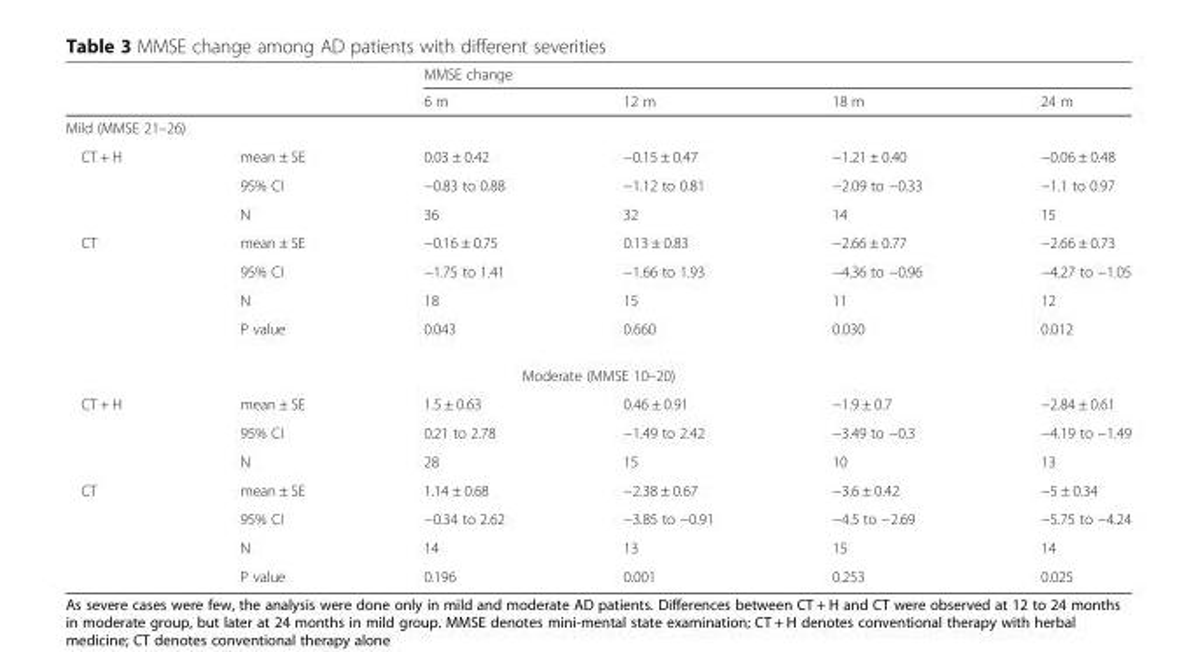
<table><thead><tr><td rowspan="2"></td><td rowspan="2"></td><td colspan="4">MMSE change</td></tr><tr><td>6 m</td><td>12 m</td><td>18 m</td><td>24 m</td></tr></thead><tbody><tr><td colspan="6">Mild (MMSE 21–26)</td></tr><tr><td rowspan="3">CT + H</td><td>mean ± SE</td><td>0.03 ± 0.42</td><td>−0.15 ± 0.47</td><td>−1.21 ± 0.40</td><td>−0.06 ± 0.48</td></tr><tr><td>95% CI</td><td>−0.83 to 0.88</td><td>−1.12 to 0.81</td><td>−2.09 to −0.33</td><td>−1.1 to 0.97</td></tr><tr><td>N</td><td>36</td><td>32</td><td>14</td><td>15</td></tr><tr><td rowspan="4">CT</td><td>mean ± SE</td><td>−0.16 ± 0.75</td><td>0.13 ± 0.83</td><td>−2.66 ± 0.77</td><td>−2.66 ± 0.73</td></tr><tr><td>95% CI</td><td>−1.75 to 1.41</td><td>−1.66 to 1.93</td><td>−4.36 to −0.96</td><td>−4.27 to −1.05</td></tr><tr><td>N</td><td>18</td><td>15</td><td>11</td><td>12</td></tr><tr><td>P value</td><td>0.043</td><td>0.660</td><td>0.030</td><td>0.012</td></tr><tr><td colspan="6">Moderate (MMSE 10–20)</td></tr><tr><td rowspan="3">CT + H</td><td>mean ± SE</td><td>1.5 ± 0.63</td><td>0.46 ± 0.91</td><td>−1.9 ± 0.7</td><td>−2.84 ± 0.61</td></tr><tr><td>95% CI</td><td>0.21 to 2.78</td><td>−1.49 to 2.42</td><td>−3.49 to −0.3</td><td>−4.19 to −1.49</td></tr><tr><td>N</td><td>28</td><td>15</td><td>10</td><td>13</td></tr><tr><td rowspan="4">CT</td><td>mean ± SE</td><td>1.14 ± 0.68</td><td>−2.38 ± 0.67</td><td>−3.6 ± 0.42</td><td>−5 ± 0.34</td></tr><tr><td>95% CI</td><td>−0.34 to 2.62</td><td>−3.85 to −0.91</td><td>−4.5 to −2.69</td><td>−5.75 to −4.24</td></tr><tr><td>N</td><td>14</td><td>13</td><td>15</td><td>14</td></tr><tr><td>P value</td><td>0.196</td><td>0.001</td><td>0.253</td><td>0.025</td></tr></tbody></table>